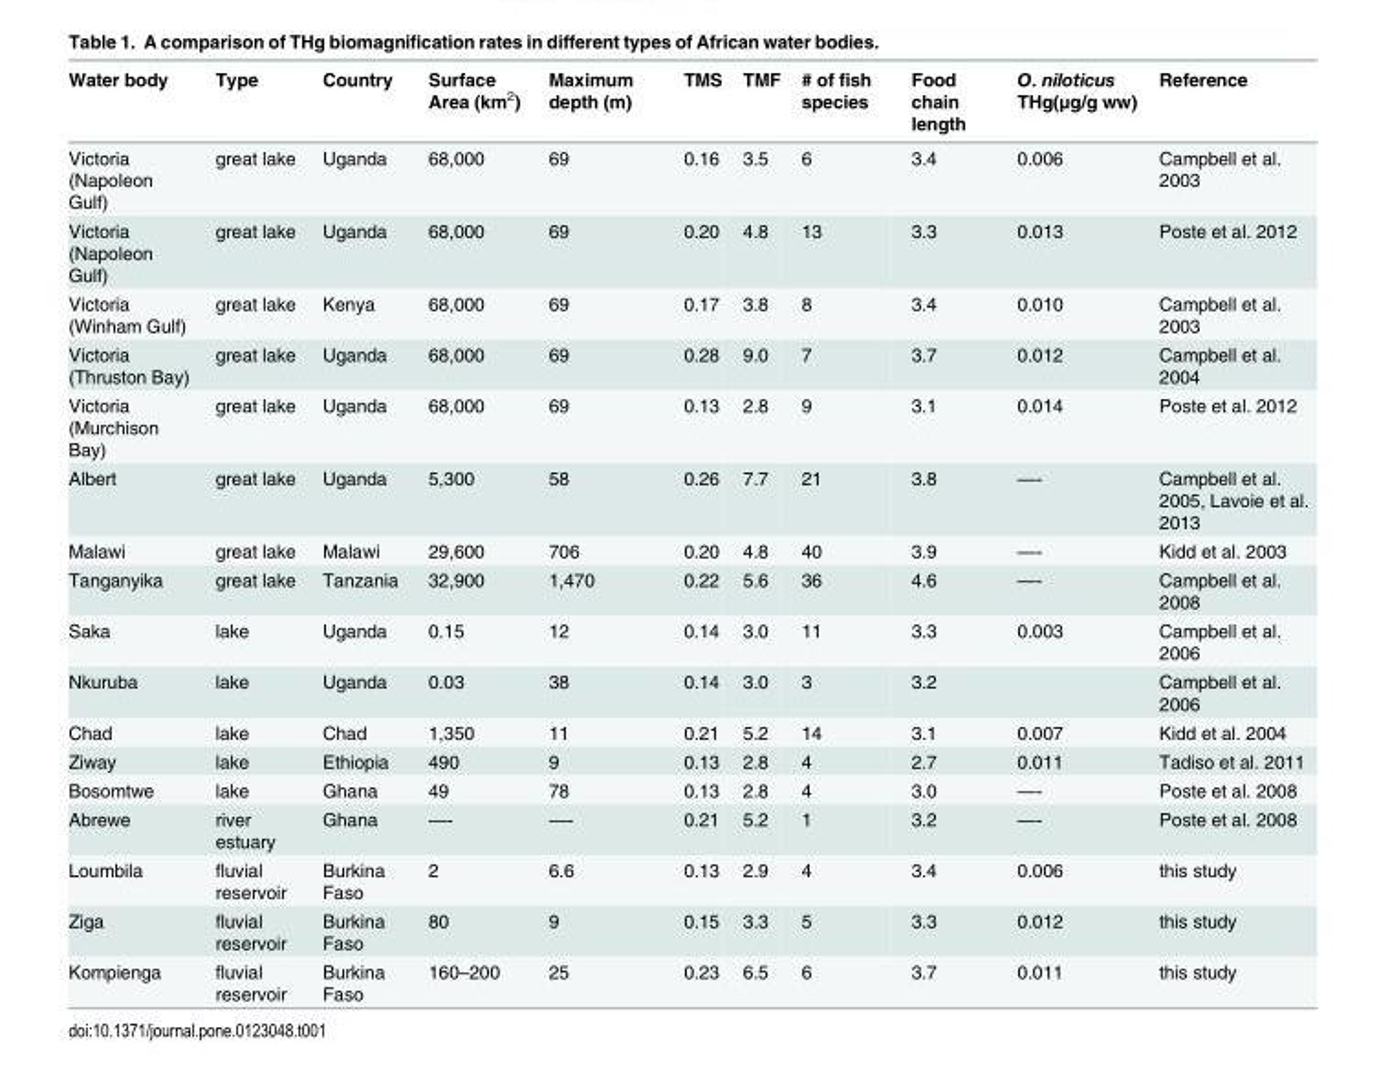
<table><thead><tr><td>Water body</td><td>Type</td><td>Country</td><td>Surface Area (km<sup>2</sup>)</td><td>Maximum depth (m)</td><td>TMS</td><td>TMF</td><td># of fish species</td><td>Food chain length</td><td>O. niloticus THg(μg/g ww)</td><td>Reference</td></tr></thead><tbody><tr><td>Victoria (Napoleon Gulf)</td><td>great lake</td><td>Uganda</td><td>68,000</td><td>69</td><td>0.16</td><td>3.5</td><td>6</td><td>3.4</td><td>0.006</td><td>Campbell et al. 2003</td></tr><tr><td>Victoria (Napoleon Gulf)</td><td>great lake</td><td>Uganda</td><td>68,000</td><td>69</td><td>0.20</td><td>4.8</td><td>13</td><td>3.3</td><td>0.013</td><td>Poste et al. 2012</td></tr><tr><td>Victoria (Winham Gulf)</td><td>great lake</td><td>Kenya</td><td>68,000</td><td>69</td><td>0.17</td><td>3.8</td><td>8</td><td>3.4</td><td>0.010</td><td>Campbell et al. 2003</td></tr><tr><td>Victoria (Thruston Bay)</td><td>great lake</td><td>Uganda</td><td>68,000</td><td>69</td><td>0.28</td><td>9.0</td><td>7</td><td>3.7</td><td>0.012</td><td>Campbell et al. 2004</td></tr><tr><td>Victoria (Murchison Bay)</td><td>great lake</td><td>Uganda</td><td>68,000</td><td>69</td><td>0.13</td><td>2.8</td><td>9</td><td>3.1</td><td>0.014</td><td>Poste et al. 2012</td></tr><tr><td>Albert</td><td>great lake</td><td>Uganda</td><td>5,300</td><td>58</td><td>0.26</td><td>7.7</td><td>21</td><td>3.8</td><td>—-</td><td>Campbell et al. 2005, Lavoie et al. 2013</td></tr><tr><td>Malawi</td><td>great lake</td><td>Malawi</td><td>29,600</td><td>706</td><td>0.20</td><td>4.8</td><td>40</td><td>3.9</td><td>—-</td><td>Kidd et al. 2003</td></tr><tr><td>Tanganyika</td><td>great lake</td><td>Tanzania</td><td>32,900</td><td>1,470</td><td>0.22</td><td>5.6</td><td>36</td><td>4.6</td><td>—-</td><td>Campbell et al. 2008</td></tr><tr><td>Saka</td><td>lake</td><td>Uganda</td><td>0.15</td><td>12</td><td>0.14</td><td>3.0</td><td>11</td><td>3.3</td><td>0.003</td><td>Campbell et al. 2006</td></tr><tr><td>Nkuruba</td><td>lake</td><td>Uganda</td><td>0.03</td><td>38</td><td>0.14</td><td>3.0</td><td>3</td><td>3.2</td><td></td><td>Campbell et al. 2006</td></tr><tr><td>Chad</td><td>lake</td><td>Chad</td><td>1,350</td><td>11</td><td>0.21</td><td>5.2</td><td>14</td><td>3.1</td><td>0.007</td><td>Kidd et al. 2004</td></tr><tr><td>Ziway</td><td>lake</td><td>Ethiopia</td><td>490</td><td>9</td><td>0.13</td><td>2.8</td><td>4</td><td>2.7</td><td>0.011</td><td>Tadiso et al. 2011</td></tr><tr><td>Bosomtwe</td><td>lake</td><td>Ghana</td><td>49</td><td>78</td><td>0.13</td><td>2.8</td><td>4</td><td>3.0</td><td>—-</td><td>Poste et al. 2008</td></tr><tr><td>Abrewe</td><td>river estuary</td><td>Ghana</td><td>—-</td><td>—-</td><td>0.21</td><td>5.2</td><td>1</td><td>3.2</td><td>—-</td><td>Poste et al. 2008</td></tr><tr><td>Loumbila</td><td>fluvial reservoir</td><td>Burkina Faso</td><td>2</td><td>6.6</td><td>0.13</td><td>2.9</td><td>4</td><td>3.4</td><td>0.006</td><td>this study</td></tr><tr><td>Ziga</td><td>fluvial reservoir</td><td>Burkina Faso</td><td>80</td><td>9</td><td>0.15</td><td>3.3</td><td>5</td><td>3.3</td><td>0.012</td><td>this study</td></tr><tr><td>Kompienga</td><td>fluvial reservoir</td><td>Burkina Faso</td><td>160–200</td><td>25</td><td>0.23</td><td>6.5</td><td>6</td><td>3.7</td><td>0.011</td><td>this study</td></tr></tbody></table>